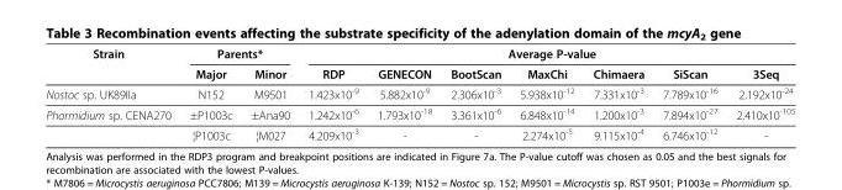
<table><thead><tr><td rowspan="2">Strain</td><td colspan="2">Parents*</td><td colspan="7">Average P-value</td></tr><tr><td>Major</td><td>Minor</td><td>RDP</td><td>GENECON</td><td>BootScan</td><td>MaxChi</td><td>Chimaera</td><td>SiScan</td><td>3Seq</td></tr></thead><tbody><tr><td>Nostoc sp. UK89IIa</td><td>N152</td><td>M9501</td><td>1.423x10<sup>-9</sup></td><td>5.882x10<sup>-9</sup></td><td>2.306x10<sup>-3</sup></td><td>5.938x10<sup>-12</sup></td><td>7.331x10<sup>-3</sup></td><td>7.789x10<sup>-16</sup></td><td>2.192x10<sup>-24</sup></td></tr><tr><td rowspan="2">Phormidium sp. CENA270</td><td>±P1003c</td><td>±Ana90</td><td>1.242x10<sup>-6</sup></td><td>1.793x10<sup>-18</sup></td><td>3.361x10<sup>-6</sup></td><td>6.848x10<sup>-14</sup></td><td>1.200x10<sup>-3</sup></td><td>7.894x10<sup>-27</sup></td><td>2.410x10<sup>-105</sup></td></tr><tr><td>¦P1003c</td><td>¦M027</td><td>4.209x10<sup>-3</sup></td><td>-</td><td>-</td><td>2.274x10<sup>-5</sup></td><td>9.115x10<sup>-4</sup></td><td>6.746x10<sup>-12</sup></td><td>-</td></tr></tbody></table>